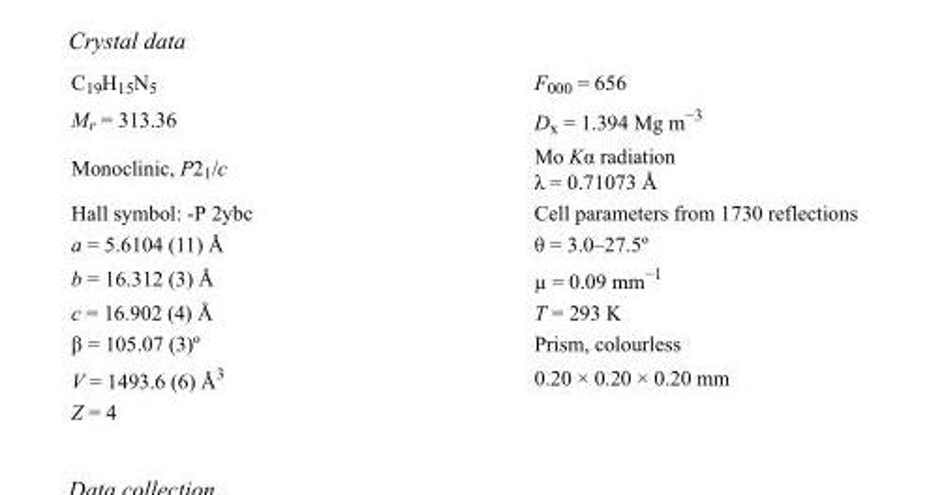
<table><tbody><tr><td>C<sub>19</sub>H<sub>15</sub>N<sub>5</sub></td><td>F000 = 656</td></tr><tr><td>M<sub>r</sub> = 313.36</td><td>D<sub>x</sub> = 1.394 Mg m<sup>−3</sup></td></tr><tr><td>Monoclinic, P2<sub>1</sub>/c</td><td>Mo Kα radiation λ = 0.71073 Å</td></tr><tr><td>Hall symbol: -P 2ybc</td><td>Cell parameters from 1730 reflections</td></tr><tr><td>a = 5.6104 (11) Å</td><td>θ = 3.0–27.5º</td></tr><tr><td>b = 16.312 (3) Å</td><td>µ = 0.09 mm<sup>−1</sup></td></tr><tr><td>c = 16.902 (4) Å</td><td>T = 293 K</td></tr><tr><td>β = 105.07 (3)º</td><td>Prism, colourless</td></tr><tr><td>V = 1493.6 (6) Å<sup>3</sup></td><td>0.20 × 0.20 × 0.20 mm</td></tr><tr><td>Z = 4</td><td></td></tr></tbody></table>